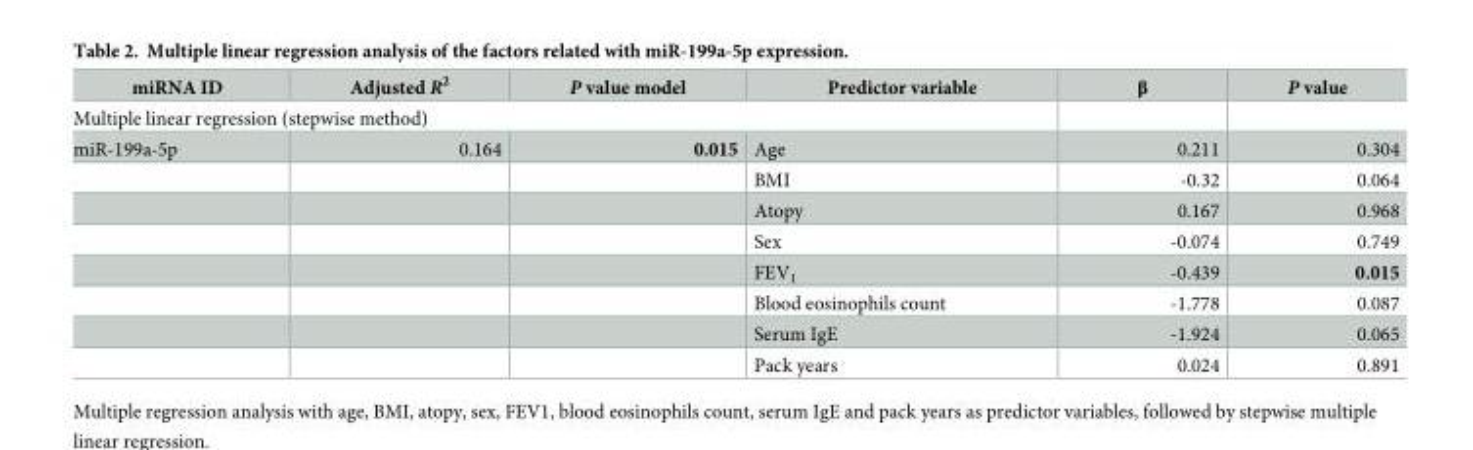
<table><thead><tr><td>miRNA ID</td><td>Adjusted R<sup>2</sup></td><td>P value model</td><td>Predictor variable</td><td>β</td><td>P value</td></tr></thead><tbody><tr><td colspan="6">Multiple linear regression (stepwise method)</td></tr><tr><td rowspan="8">miR-199a-5p</td><td>0.164</td><td>0.015</td><td>Age</td><td>0.211</td><td>0.304</td></tr><tr><td></td><td></td><td>BMI</td><td>-0.32</td><td>0.064</td></tr><tr><td></td><td></td><td>Atopy</td><td>0.167</td><td>0.968</td></tr><tr><td></td><td></td><td>Sex</td><td>-0.074</td><td>0.749</td></tr><tr><td></td><td></td><td>FEV<sub>1</sub></td><td>-0.439</td><td>0.015</td></tr><tr><td></td><td></td><td>Blood eosinophils count</td><td>-1.778</td><td>0.087</td></tr><tr><td></td><td></td><td>Serum IgE</td><td>-1.924</td><td>0.065</td></tr><tr><td></td><td></td><td>Pack years</td><td>0.024</td><td>0.891</td></tr></tbody></table>